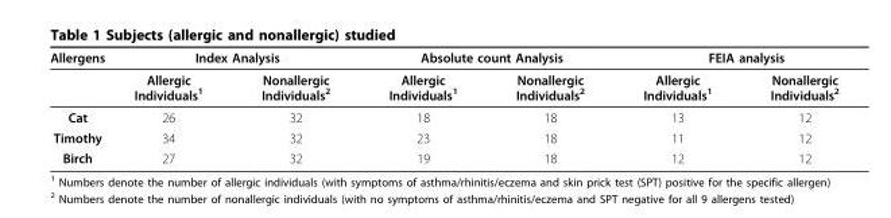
<table><thead><tr><td rowspan="2">Allergens</td><td colspan="2">Index Analysis</td><td colspan="2">Absolute count Analysis</td><td colspan="2">FEIA analysis</td></tr><tr><td>Allergic Individuals<sup>1</sup></td><td>Nonallergic Individuals<sup>2</sup></td><td>Allergic Individuals<sup>1</sup></td><td>Nonallergic Individuals<sup>2</sup></td><td>Allergic Individuals<sup>1</sup></td><td>Nonallergic Individuals<sup>2</sup></td></tr></thead><tbody><tr><td>Cat</td><td>26</td><td>32</td><td>18</td><td>18</td><td>13</td><td>12</td></tr><tr><td>Timothy</td><td>34</td><td>32</td><td>23</td><td>18</td><td>11</td><td>12</td></tr><tr><td>Birch</td><td>27</td><td>32</td><td>19</td><td>18</td><td>12</td><td>12</td></tr></tbody></table>